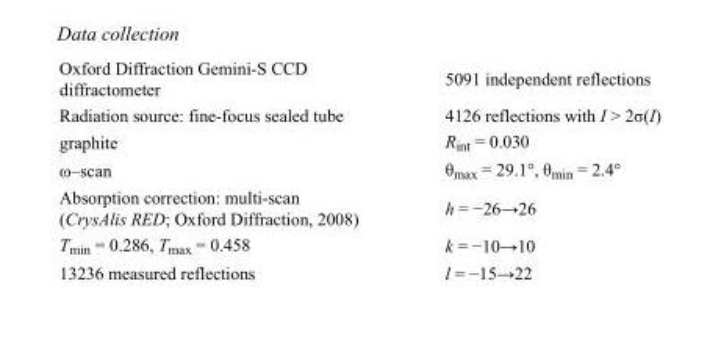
<table><tbody><tr><td>Oxford Diffraction Gemini-S CCD diffractometer</td><td>5091 independent reflections</td></tr><tr><td>Radiation source: fine-focus sealed tube</td><td>4126 reflections with I &gt; 2σ(I)</td></tr><tr><td>graphite</td><td>R<sub>int</sub> = 0.030</td></tr><tr><td>ω–scan</td><td>θ<sub>max</sub> = 29.1°, θ<sub>min</sub> = 2.4°</td></tr><tr><td>Absorption correction: multi-scan (CrysAlis RED; Oxford Diffraction, 2008)</td><td>h = −26→26</td></tr><tr><td>T<sub>min</sub> = 0.286, T<sub>max</sub> = 0.458</td><td>k = −10→10</td></tr><tr><td>13236 measured reflections</td><td>l = −15→22</td></tr></tbody></table>